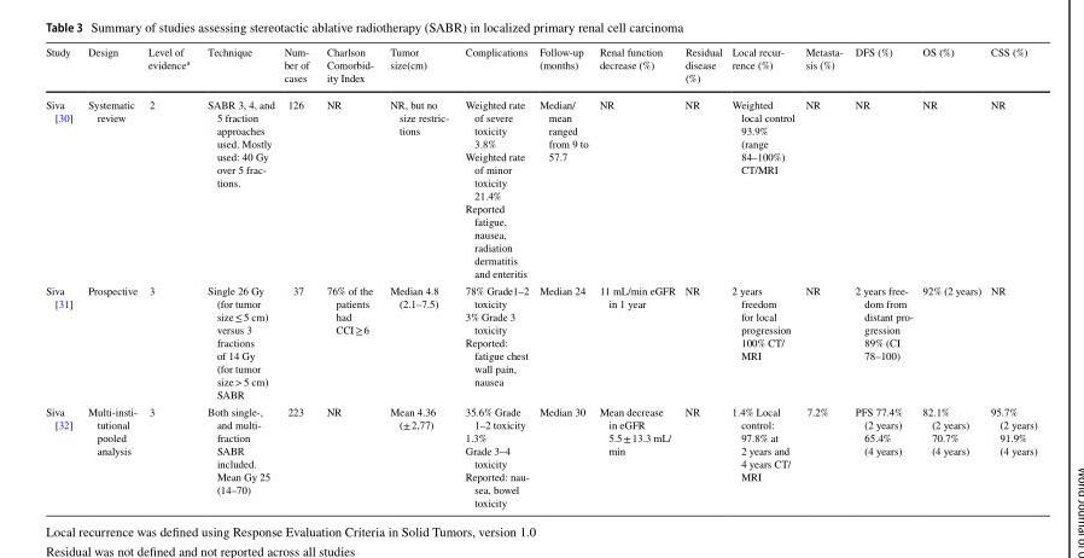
<table><thead><tr><td>Study</td><td>Design</td><td>Level of evidence<sup>a</sup></td><td>Technique</td><td>Num- ber of cases</td><td>Charlson Comorbid- ity Index</td><td>Tumor size(cm)</td><td>Complications</td><td>Follow-up (months)</td><td>Renal function decrease (%)</td><td>Residual disease (%)</td><td>Local recur- rence (%)</td><td>Metasta- sis (%)</td><td>DFS (%)</td><td>OS (%)</td><td>CSS (%)</td></tr></thead><tbody><tr><td>Siva [30]</td><td>Systematic review</td><td>2</td><td>SABR 3, 4, and 5 fraction approaches used. Mostly used: 40 Gy over 5 frac- tions.</td><td>126</td><td>NR</td><td>NR, but no size restric- tions</td><td>Weighted rate of severe toxicity 3.8% Weighted rate of minor toxicity 21.4% Reported fatigue, nausea, radiation dermatitis and enteritis</td><td>Median/ mean ranged from 9 to 57.7</td><td>NR</td><td>NR</td><td>Weighted local control 93.9% (range 84–100%) CT/MRI</td><td>NR</td><td>NR</td><td>NR</td><td>NR</td></tr><tr><td>Siva [31]</td><td>Prospective</td><td>3</td><td>Single 26 Gy (for tumor size ≤ 5 cm) versus 3 fractions of 14 Gy (for tumor size &gt; 5 cm) SABR</td><td>37</td><td>76% of the patients had CCI ≥ 6</td><td>Median 4.8 (2.1–7.5)</td><td>78% Grade1–2 toxicity 3% Grade 3 toxicity Reported: fatigue chest wall pain, nausea</td><td>Median 24</td><td>11 mL/min eGFR in 1 year</td><td>NR</td><td>2 years freedom for local progression 100% CT/ MRI</td><td>NR</td><td>2 years free- dom from distant pro- gression 89% (CI 78–100)</td><td>92% (2 years)</td><td>NR</td></tr><tr><td>Siva [32]</td><td>Multi-insti- tutional pooled analysis</td><td>3</td><td>Both single-, and multi- fraction SABR included. Mean Gy 25 (14–70)</td><td>223</td><td>NR</td><td>Mean 4.36 (± 2,77)</td><td>35.6% Grade 1–2 toxicity 1.3% Grade 3–4 toxicity Reported: nau- sea, bowel toxicity</td><td>Median 30</td><td>Mean decrease in eGFR 5.5 ± 13.3 mL/ min</td><td>NR</td><td>1.4% Local control: 97.8% at 2 years and 4 years CT/ MRI</td><td>7.2%</td><td>PFS 77.4% (2 years) 65.4% (4 years)</td><td>82.1% (2 years) 70.7% (4 years)</td><td>95.7% (2 years) 91.9% (4 years)</td></tr></tbody></table>